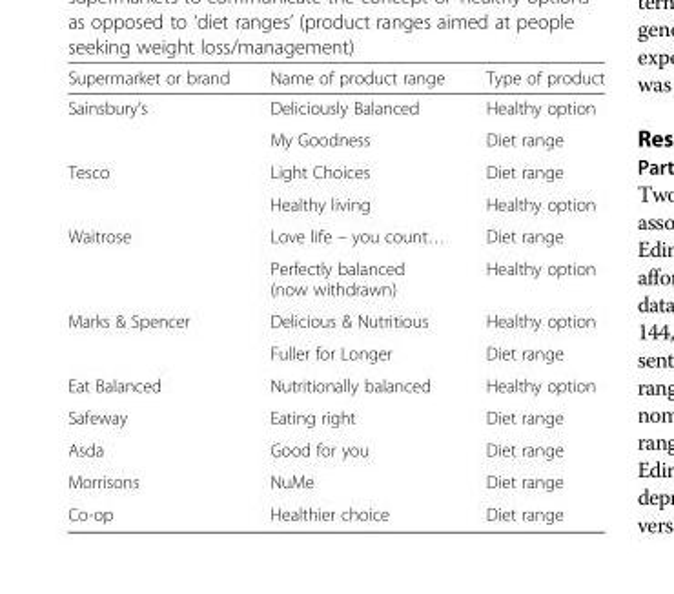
<table><thead><tr><td>Supermarket or brand</td><td>Name of product range</td><td>Type of product</td></tr></thead><tbody><tr><td rowspan="2">Sainsbury’s</td><td>Deliciously Balanced</td><td>Healthy option</td></tr><tr><td>My Goodness</td><td>Diet range</td></tr><tr><td rowspan="2">Tesco</td><td>Light Choices</td><td>Diet range</td></tr><tr><td>Healthy living</td><td>Healthy option</td></tr><tr><td rowspan="2">Waitrose</td><td>Love life – you count…</td><td>Diet range</td></tr><tr><td>Perfectly balanced (now withdrawn)</td><td>Healthy option</td></tr><tr><td rowspan="2">Marks &amp; Spencer</td><td>Delicious &amp; Nutritious</td><td>Healthy option</td></tr><tr><td>Fuller for Longer</td><td>Diet range</td></tr><tr><td>Eat Balanced</td><td>Nutritionally balanced</td><td>Healthy option</td></tr><tr><td>Safeway</td><td>Eating right</td><td>Diet range</td></tr><tr><td>Asda</td><td>Good for you</td><td>Diet range</td></tr><tr><td>Morrisons</td><td>NuMe</td><td>Diet range</td></tr><tr><td>Co-op</td><td>Healthier choice</td><td>Diet range</td></tr></tbody></table>